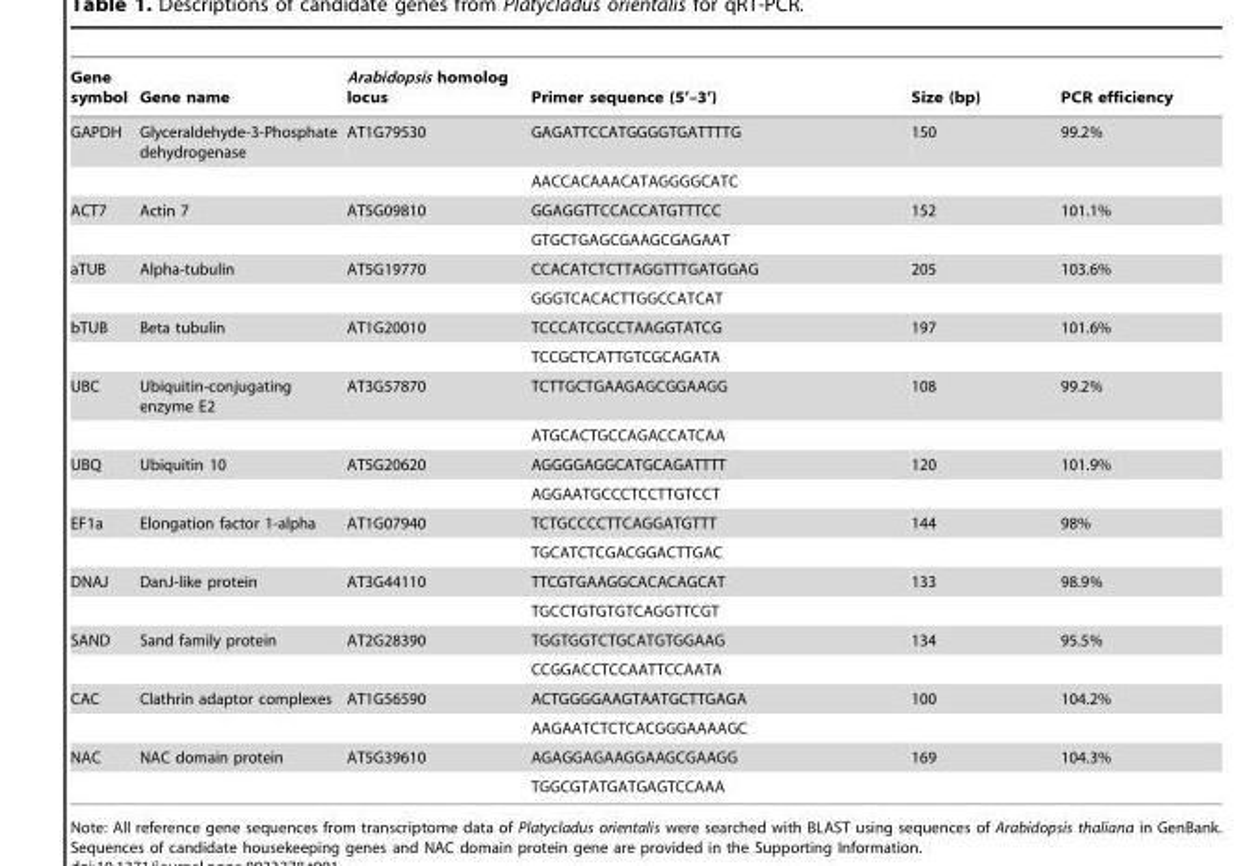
<table><thead><tr><td>Gene symbol</td><td>Gene name</td><td>Arabidopsis homolog locus</td><td>Primer sequence (5’–3’)</td><td>Size (bp)</td><td>PCR efficiency</td></tr></thead><tbody><tr><td rowspan="2">GAPDH</td><td>Glyceraldehyde-3-Phosphate dehydrogenase</td><td>AT1G79530</td><td>GAGATTCCATGGGGTGATTTTG</td><td>150</td><td>99.2%</td></tr><tr><td></td><td></td><td>AACCACAAACATAGGGGCATC</td><td></td><td></td></tr><tr><td rowspan="2">ACT7</td><td>Actin 7</td><td>AT5G09810</td><td>GGAGGTTCCACCATGTTTCC</td><td>152</td><td>101.1%</td></tr><tr><td></td><td></td><td>GTGCTGAGCGAAGCGAGAAT</td><td></td><td></td></tr><tr><td rowspan="2">aTUB</td><td>Alpha-tubulin</td><td>AT5G19770</td><td>CCACATCTCTTAGGTTTGATGGAG</td><td>205</td><td>103.6%</td></tr><tr><td></td><td></td><td>GGGTCACACTTGGCCATCAT</td><td></td><td></td></tr><tr><td rowspan="2">bTUB</td><td>Beta tubulin</td><td>AT1G20010</td><td>TCCCATCGCCTAAGGTATCG</td><td>197</td><td>101.6%</td></tr><tr><td></td><td></td><td>TCCGCTCATTGTCGCAGATA</td><td></td><td></td></tr><tr><td rowspan="2">UBC</td><td>Ubiquitin-conjugating enzyme E2</td><td>AT3G57870</td><td>TCTTGCTGAAGAGCGGAAGG</td><td>108</td><td>99.2%</td></tr><tr><td></td><td></td><td>ATGCACTGCCAGACCATCAA</td><td></td><td></td></tr><tr><td rowspan="2">UBQ</td><td>Ubiquitin 10</td><td>AT5G20620</td><td>AGGGGAGGCATGCAGATTTT</td><td>120</td><td>101.9%</td></tr><tr><td></td><td></td><td>AGGAATGCCCTCCTTGTCCT</td><td></td><td></td></tr><tr><td rowspan="2">EF1a</td><td>Elongation factor 1-alpha</td><td>AT1G07940</td><td>TCTGCCCCTTCAGGATGTTT</td><td>144</td><td>98%</td></tr><tr><td></td><td></td><td>TGCATCTCGACGGACTTGAC</td><td></td><td></td></tr><tr><td rowspan="2">DNAJ</td><td>DanJ-like protein</td><td>AT3G44110</td><td>TTCGTGAAGGCACACAGCAT</td><td>133</td><td>98.9%</td></tr><tr><td></td><td></td><td>TGCCTGTGTGTCAGGTTCGT</td><td></td><td></td></tr><tr><td rowspan="2">SAND</td><td>Sand family protein</td><td>AT2G28390</td><td>TGGTGGTCTGCATGTGGAAG</td><td>134</td><td>95.5%</td></tr><tr><td></td><td></td><td>CCGGACCTCCAATTCCAATA</td><td></td><td></td></tr><tr><td rowspan="2">CAC</td><td>Clathrin adaptor complexes</td><td>AT1G56590</td><td>ACTGGGGAAGTAATGCTTGAGA</td><td>100</td><td>104.2%</td></tr><tr><td></td><td></td><td>AAGAATCTCTCACGGGAAAAGC</td><td></td><td></td></tr><tr><td rowspan="2">NAC</td><td>NAC domain protein</td><td>AT5G39610</td><td>AGAGGAGAAGGAAGCGAAGG</td><td>169</td><td>104.3%</td></tr><tr><td></td><td></td><td>TGGCGTATGATGAGTCCAAA</td><td></td><td></td></tr></tbody></table>